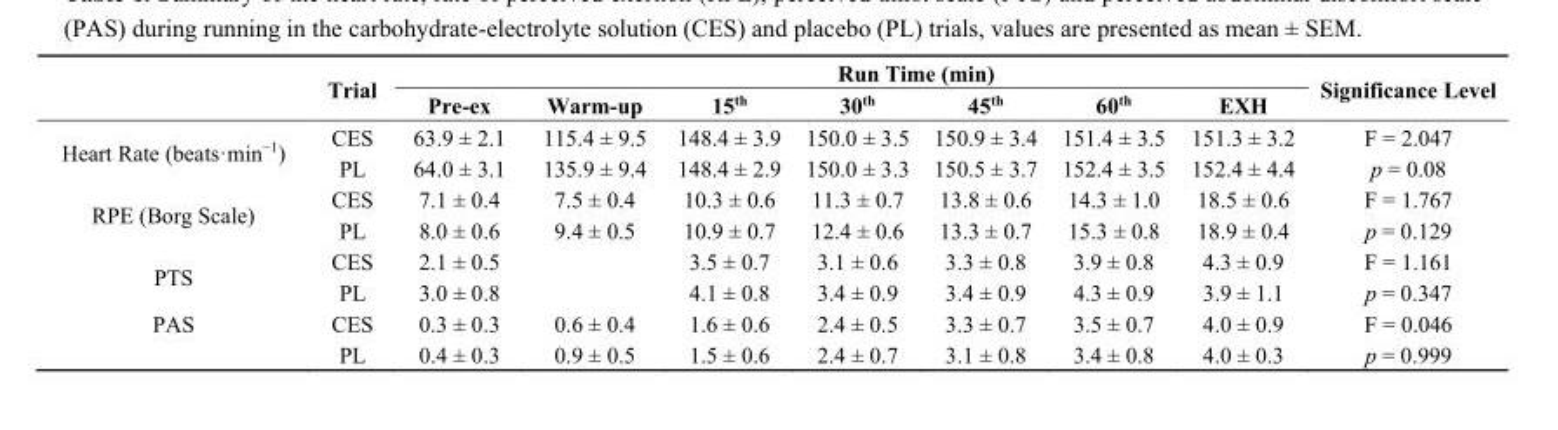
<table><thead><tr><td rowspan="2"></td><td rowspan="2">Trial</td><td colspan="7">Run Time (min)</td><td rowspan="2">Significance Level</td></tr><tr><td>Pre-ex</td><td>Warm-up</td><td>15<sup>th</sup></td><td>30<sup>th</sup></td><td>45<sup>th</sup></td><td>60<sup>th</sup></td><td>EXH</td></tr></thead><tbody><tr><td rowspan="2">Heart Rate (beats·min<sup>−1</sup>)</td><td>CES</td><td>63.9 ± 2.1</td><td>115.4 ± 9.5</td><td>148.4 ± 3.9</td><td>150.0 ± 3.5</td><td>150.9 ± 3.4</td><td>151.4 ± 3.5</td><td>151.3 ± 3.2</td><td>F = 2.047</td></tr><tr><td>PL</td><td>64.0 ± 3.1</td><td>135.9 ± 9.4</td><td>148.4 ± 2.9</td><td>150.0 ± 3.3</td><td>150.5 ± 3.7</td><td>152.4 ± 3.5</td><td>152.4 ± 4.4</td><td>p = 0.08</td></tr><tr><td rowspan="2">RPE (Borg Scale)</td><td>CES</td><td>7.1 ± 0.4</td><td>7.5 ± 0.4</td><td>10.3 ± 0.6</td><td>11.3 ± 0.7</td><td>13.8 ± 0.6</td><td>14.3 ± 1.0</td><td>18.5 ± 0.6</td><td>F = 1.767</td></tr><tr><td>PL</td><td>8.0 ± 0.6</td><td>9.4 ± 0.5</td><td>10.9 ± 0.7</td><td>12.4 ± 0.6</td><td>13.3 ± 0.7</td><td>15.3 ± 0.8</td><td>18.9 ± 0.4</td><td>p = 0.129</td></tr><tr><td rowspan="2">PTS</td><td>CES</td><td>2.1 ± 0.5</td><td></td><td>3.5 ± 0.7</td><td>3.1 ± 0.6</td><td>3.3 ± 0.8</td><td>3.9 ± 0.8</td><td>4.3 ± 0.9</td><td>F = 1.161</td></tr><tr><td>PL</td><td>3.0 ± 0.8</td><td></td><td>4.1 ± 0.8</td><td>3.4 ± 0.9</td><td>3.4 ± 0.9</td><td>4.3 ± 0.9</td><td>3.9 ± 1.1</td><td>p = 0.347</td></tr><tr><td rowspan="2">PAS</td><td>CES</td><td>0.3 ± 0.3</td><td>0.6 ± 0.4</td><td>1.6 ± 0.6</td><td>2.4 ± 0.5</td><td>3.3 ± 0.7</td><td>3.5 ± 0.7</td><td>4.0 ± 0.9</td><td>F = 0.046</td></tr><tr><td>PL</td><td>0.4 ± 0.3</td><td>0.9 ± 0.5</td><td>1.5 ± 0.6</td><td>2.4 ± 0.7</td><td>3.1 ± 0.8</td><td>3.4 ± 0.8</td><td>4.0 ± 0.3</td><td>p = 0.999</td></tr></tbody></table>